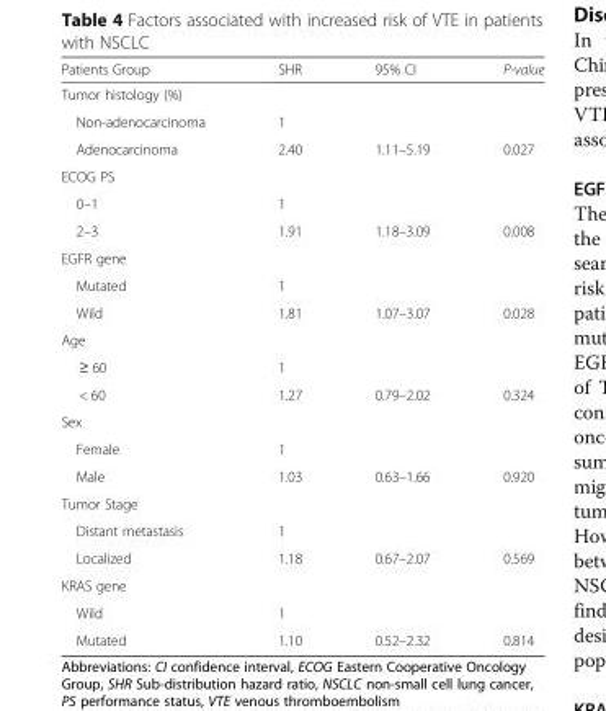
<table><thead><tr><td>Patients Group</td><td>SHR</td><td>95% CI</td><td>P-value</td></tr></thead><tbody><tr><td colspan="4">Tumor histology (%)</td></tr><tr><td>Non-adenocarcinoma</td><td>1</td><td></td><td></td></tr><tr><td>Adenocarcinoma</td><td>2.40</td><td>1.11–5.19</td><td>0.027</td></tr><tr><td colspan="4">ECOG PS</td></tr><tr><td>0–1</td><td>1</td><td></td><td></td></tr><tr><td>2–3</td><td>1.91</td><td>1.18–3.09</td><td>0.008</td></tr><tr><td colspan="4">EGFR gene</td></tr><tr><td>Mutated</td><td>1</td><td></td><td></td></tr><tr><td>Wild</td><td>1.81</td><td>1.07–3.07</td><td>0.028</td></tr><tr><td colspan="4">Age</td></tr><tr><td>≥ 60</td><td>1</td><td></td><td></td></tr><tr><td>&lt; 60</td><td>1.27</td><td>0.79–2.02</td><td>0.324</td></tr><tr><td colspan="4">Sex</td></tr><tr><td>Female</td><td>1</td><td></td><td></td></tr><tr><td>Male</td><td>1.03</td><td>0.63–1.66</td><td>0.920</td></tr><tr><td colspan="4">Tumor Stage</td></tr><tr><td>Distant metastasis</td><td>1</td><td></td><td></td></tr><tr><td>Localized</td><td>1.18</td><td>0.67–2.07</td><td>0.569</td></tr><tr><td colspan="4">KRAS gene</td></tr><tr><td>Wild</td><td>1</td><td></td><td></td></tr><tr><td>Mutated</td><td>1.10</td><td>0.52–2.32</td><td>0.814</td></tr></tbody></table>